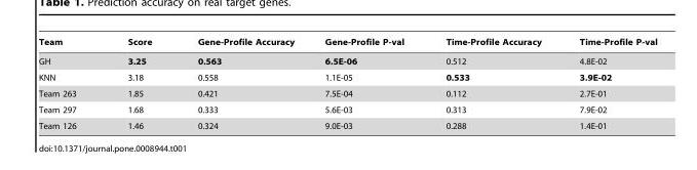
<table><thead><tr><td>Team</td><td>Score</td><td>Gene-Profile Accuracy</td><td>Gene-Profile P-val</td><td>Time-Profile Accuracy</td><td>Time-Profile P-val</td></tr></thead><tbody><tr><td>GH</td><td>3.25</td><td>0.563</td><td>6.5E-06</td><td>0.512</td><td>4.8E-02</td></tr><tr><td>KNN</td><td>3.18</td><td>0.558</td><td>1.1E-05</td><td>0.533</td><td>3.9E-02</td></tr><tr><td>Team 263</td><td>1.85</td><td>0.421</td><td>7.5E-04</td><td>0.112</td><td>2.7E-01</td></tr><tr><td>Team 297</td><td>1.68</td><td>0.333</td><td>5.6E-03</td><td>0.313</td><td>7.9E-02</td></tr><tr><td>Team 126</td><td>1.46</td><td>0.324</td><td>9.0E-03</td><td>0.288</td><td>1.4E-01</td></tr></tbody></table>